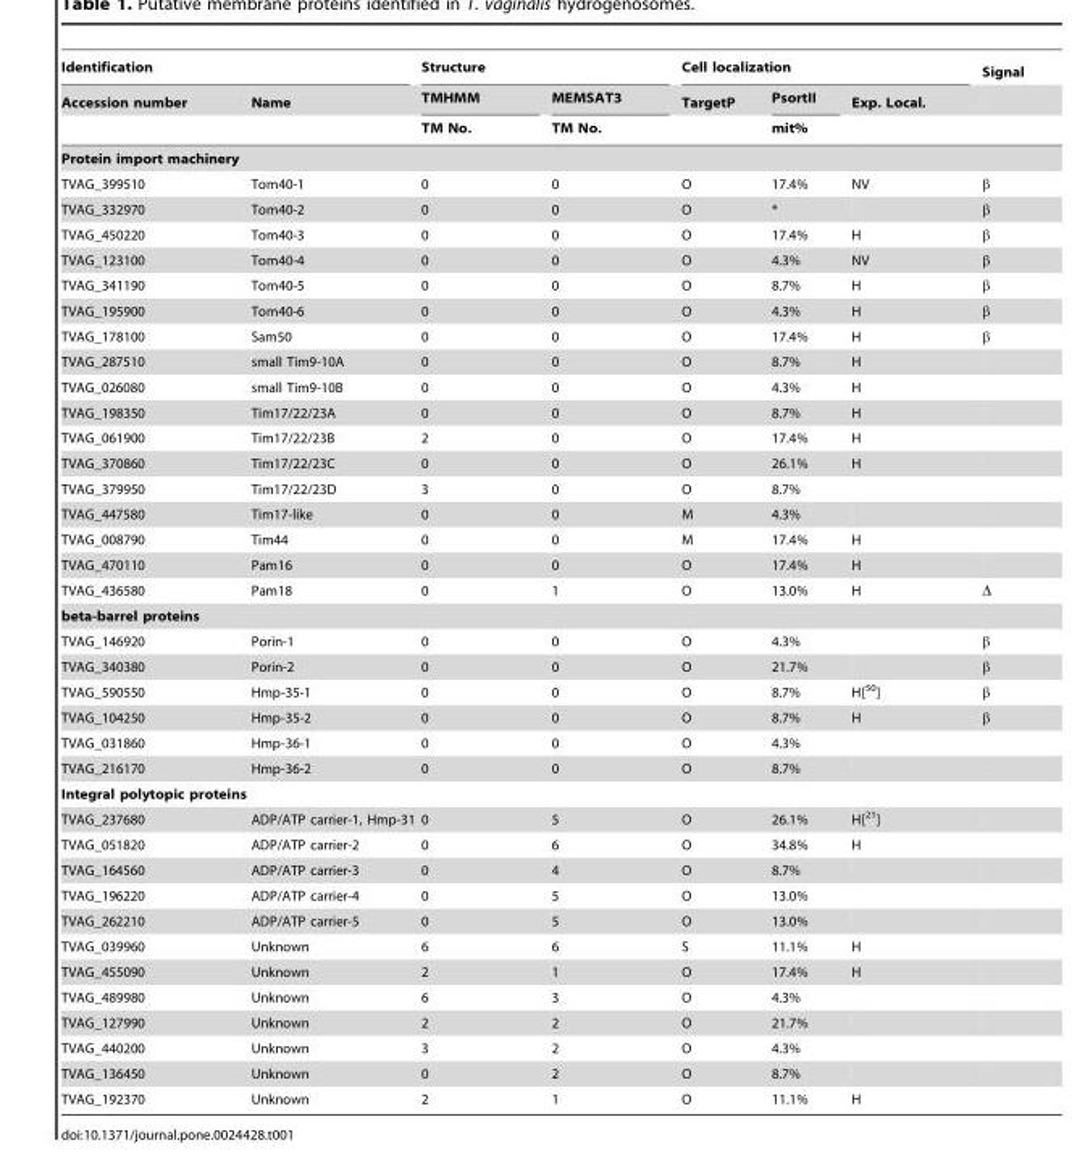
<table><thead><tr><td colspan="2">Identification</td><td colspan="2">Structure</td><td colspan="3">Cell localization</td><td rowspan="3">Signal</td></tr><tr><td rowspan="2">Accession number</td><td rowspan="2">Name</td><td rowspan="2">TMHMM TM No.</td><td rowspan="2">MEMSAT3 TM No.</td><td rowspan="2">TargetP</td><td rowspan="2">PsortII mit%</td><td rowspan="2">Exp. Local.</td></tr><tr></tr></thead><tbody><tr><td colspan="8">Protein import machinery</td></tr><tr><td>TVAG_399510</td><td>Tom40-1</td><td>0</td><td>0</td><td>O</td><td>17.4%</td><td>NV</td><td>β</td></tr><tr><td>TVAG_332970</td><td>Tom40-2</td><td>0</td><td>0</td><td>O</td><td>*</td><td></td><td>β</td></tr><tr><td>TVAG_450220</td><td>Tom40-3</td><td>0</td><td>0</td><td>O</td><td>17.4%</td><td>H</td><td>β</td></tr><tr><td>TVAG_123100</td><td>Tom40-4</td><td>0</td><td>0</td><td>O</td><td>4.3%</td><td>NV</td><td>β</td></tr><tr><td>TVAG_341190</td><td>Tom40-5</td><td>0</td><td>0</td><td>O</td><td>8.7%</td><td>H</td><td>β</td></tr><tr><td>TVAG_195900</td><td>Tom40-6</td><td>0</td><td>0</td><td>O</td><td>4.3%</td><td>H</td><td>β</td></tr><tr><td>TVAG_178100</td><td>Sam50</td><td>0</td><td>0</td><td>O</td><td>17.4%</td><td>H</td><td>β</td></tr><tr><td>TVAG_287510</td><td>small Tim9-10A</td><td>0</td><td>0</td><td>O</td><td>8.7%</td><td>H</td><td></td></tr><tr><td>TVAG_026080</td><td>small Tim9-10B</td><td>0</td><td>0</td><td>O</td><td>4.3%</td><td>H</td><td></td></tr><tr><td>TVAG_198350</td><td>Tim17/22/23A</td><td>0</td><td>0</td><td>O</td><td>8.7%</td><td>H</td><td></td></tr><tr><td>TVAG_061900</td><td>Tim17/22/23B</td><td>2</td><td>0</td><td>O</td><td>17.4%</td><td>H</td><td></td></tr><tr><td>TVAG_370860</td><td>Tim17/22/23C</td><td>0</td><td>0</td><td>O</td><td>26.1%</td><td>H</td><td></td></tr><tr><td>TVAG_379950</td><td>Tim17/22/23D</td><td>3</td><td>0</td><td>O</td><td>8.7%</td><td></td><td></td></tr><tr><td>TVAG_447580</td><td>Tim17-like</td><td>0</td><td>0</td><td>M</td><td>4.3%</td><td></td><td></td></tr><tr><td>TVAG_008790</td><td>Tim44</td><td>0</td><td>0</td><td>M</td><td>17.4%</td><td>H</td><td></td></tr><tr><td>TVAG_470110</td><td>Pam16</td><td>0</td><td>0</td><td>O</td><td>17.4%</td><td>H</td><td></td></tr><tr><td>TVAG_436580</td><td>Pam18</td><td>0</td><td>1</td><td>O</td><td>13.0%</td><td>H</td><td>Δ</td></tr><tr><td colspan="8">beta-barrel proteins</td></tr><tr><td>TVAG_146920</td><td>Porin-1</td><td>0</td><td>0</td><td>O</td><td>4.3%</td><td></td><td>β</td></tr><tr><td>TVAG_340380</td><td>Porin-2</td><td>0</td><td>0</td><td>O</td><td>21.7%</td><td></td><td>β</td></tr><tr><td>TVAG_590550</td><td>Hmp-35-1</td><td>0</td><td>0</td><td>O</td><td>8.7%</td><td>H[<sup>50</sup>]</td><td>β</td></tr><tr><td>TVAG_104250</td><td>Hmp-35-2</td><td>0</td><td>0</td><td>O</td><td>8.7%</td><td>H</td><td>β</td></tr><tr><td>TVAG_031860</td><td>Hmp-36-1</td><td>0</td><td>0</td><td>O</td><td>4.3%</td><td></td><td></td></tr><tr><td>TVAG_216170</td><td>Hmp-36-2</td><td>0</td><td>0</td><td>O</td><td>8.7%</td><td></td><td></td></tr><tr><td colspan="8">Integral polytopic proteins</td></tr><tr><td>TVAG_237680</td><td>ADP/ATP carrier-1, Hmp-31</td><td>0</td><td>5</td><td>O</td><td>26.1%</td><td>H[<sup>21</sup>]</td><td></td></tr><tr><td>TVAG_051820</td><td>ADP/ATP carrier-2</td><td>0</td><td>6</td><td>O</td><td>34.8%</td><td>H</td><td></td></tr><tr><td>TVAG_164560</td><td>ADP/ATP carrier-3</td><td>0</td><td>4</td><td>O</td><td>8.7%</td><td></td><td></td></tr><tr><td>TVAG_196220</td><td>ADP/ATP carrier-4</td><td>0</td><td>5</td><td>O</td><td>13.0%</td><td></td><td></td></tr><tr><td>TVAG_262210</td><td>ADP/ATP carrier-5</td><td>0</td><td>5</td><td>O</td><td>13.0%</td><td></td><td></td></tr><tr><td>TVAG_039960</td><td>Unknown</td><td>6</td><td>6</td><td>S</td><td>11.1%</td><td>H</td><td></td></tr><tr><td>TVAG_455090</td><td>Unknown</td><td>2</td><td>1</td><td>O</td><td>17.4%</td><td>H</td><td></td></tr><tr><td>TVAG_489980</td><td>Unknown</td><td>6</td><td>3</td><td>O</td><td>4.3%</td><td></td><td></td></tr><tr><td>TVAG_127990</td><td>Unknown</td><td>2</td><td>2</td><td>O</td><td>21.7%</td><td></td><td></td></tr><tr><td>TVAG_440200</td><td>Unknown</td><td>3</td><td>2</td><td>O</td><td>4.3%</td><td></td><td></td></tr><tr><td>TVAG_136450</td><td>Unknown</td><td>0</td><td>2</td><td>O</td><td>8.7%</td><td></td><td></td></tr><tr><td>TVAG_192370</td><td>Unknown</td><td>2</td><td>1</td><td>O</td><td>11.1%</td><td>H</td><td></td></tr></tbody></table>